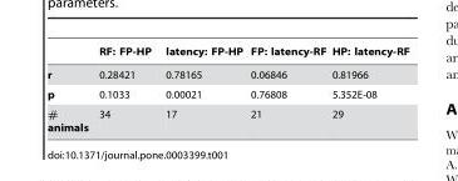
<table><thead><tr><td></td><td>RF: FP-HP</td><td>latency: FP-HP</td><td>FP: latency-RF</td><td>HP: latency-RF</td></tr></thead><tbody><tr><td>r</td><td>0.28421</td><td>0.78165</td><td>0.06846</td><td>0.81966</td></tr><tr><td>p</td><td>0.1033</td><td>0.00021</td><td>0.76808</td><td>5.352E-08</td></tr><tr><td># animals</td><td>34</td><td>17</td><td>21</td><td>29</td></tr></tbody></table>